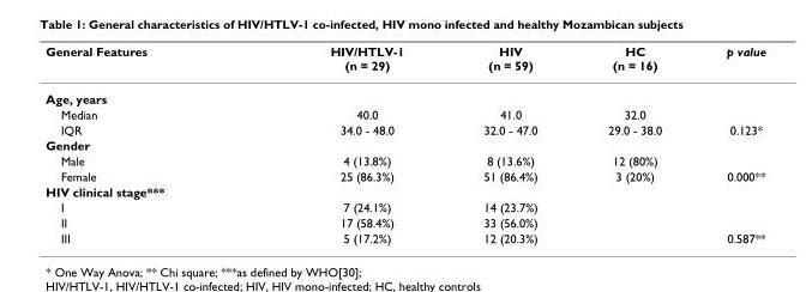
<table><thead><tr><td>General Features</td><td>HIV/HTLV-1 (n = 29)</td><td>HIV (n = 59)</td><td>HC (n = 16)</td><td>p value</td></tr></thead><tbody><tr><td colspan="5">Age, years</td></tr><tr><td>Median</td><td>40.0</td><td>41.0</td><td>32.0</td><td></td></tr><tr><td>IQR</td><td>34.0 - 48.0</td><td>32.0 - 47.0</td><td>29.0 - 38.0</td><td>0.123*</td></tr><tr><td colspan="5">Gender</td></tr><tr><td>Male</td><td>4 (13.8%)</td><td>8 (13.6%)</td><td>12 (80%)</td><td></td></tr><tr><td>Female</td><td>25 (86.3%)</td><td>51 (86.4%)</td><td>3 (20%)</td><td>0.000**</td></tr><tr><td colspan="5">HIV clinical stage***</td></tr><tr><td>I</td><td>7 (24.1%)</td><td>14 (23.7%)</td><td></td><td></td></tr><tr><td>II</td><td>17 (58.4%)</td><td>33 (56.0%)</td><td></td><td></td></tr><tr><td>III</td><td>5 (17.2%)</td><td>12 (20.3%)</td><td></td><td>0.587**</td></tr></tbody></table>